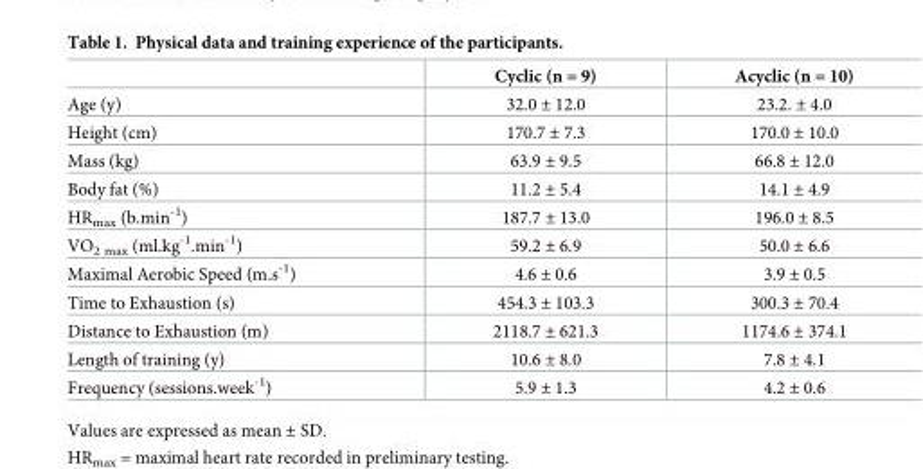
<table><thead><tr><td></td><td>Cyclic (n = 9)</td><td>Acyclic (n = 10)</td></tr></thead><tbody><tr><td>Age (y)</td><td>32.0 ± 12.0</td><td>23.2. ± 4.0</td></tr><tr><td>Height (cm)</td><td>170.7 ± 7.3</td><td>170.0 ± 10.0</td></tr><tr><td>Mass (kg)</td><td>63.9 ± 9.5</td><td>66.8 ± 12.0</td></tr><tr><td>Body fat (%)</td><td>11.2 ± 5.4</td><td>14.1 ± 4.9</td></tr><tr><td>HR<sub>max</sub> (b.min<sup>-1</sup>)</td><td>187.7 ± 13.0</td><td>196.0 ± 8.5</td></tr><tr><td>VO<sub>2 max</sub> (ml.kg<sup>-1</sup>.min<sup>-1</sup>)</td><td>59.2 ± 6.9</td><td>50.0 ± 6.6</td></tr><tr><td>Maximal Aerobic Speed (m.s<sup>-1</sup>)</td><td>4.6 ± 0.6</td><td>3.9 ± 0.5</td></tr><tr><td>Time to Exhaustion (s)</td><td>454.3 ± 103.3</td><td>300.3 ± 70.4</td></tr><tr><td>Distance to Exhaustion (m)</td><td>2118.7 ± 621.3</td><td>1174.6 ± 374.1</td></tr><tr><td>Length of training (y)</td><td>10.6 ± 8.0</td><td>7.8 ± 4.1</td></tr><tr><td>Frequency (sessions.week<sup>-1</sup>)</td><td>5.9 ± 1.3</td><td>4.2 ± 0.6</td></tr></tbody></table>